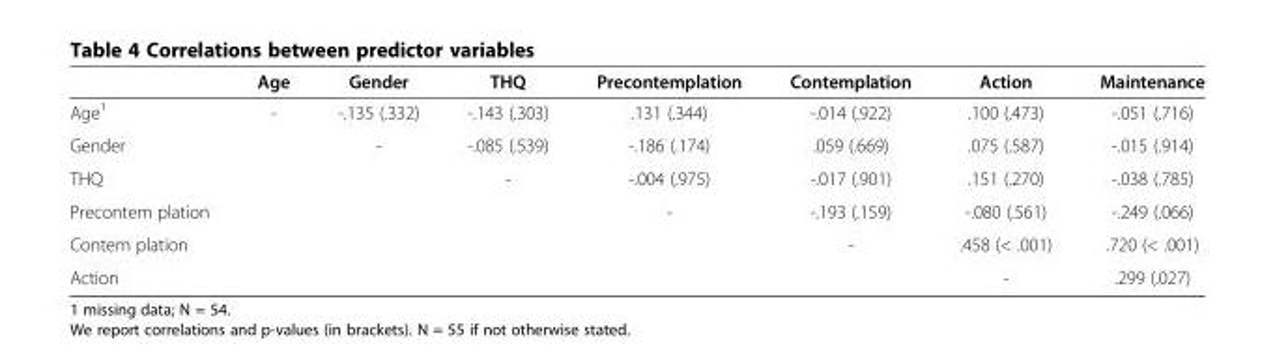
<table><thead><tr><td></td><td>Age</td><td>Gender</td><td>THQ</td><td>Precontemplation</td><td>Contemplation</td><td>Action</td><td>Maintenance</td></tr></thead><tbody><tr><td>Age<sup>1</sup></td><td>-</td><td>-.135 (.332)</td><td>-.143 (.303)</td><td>.131 (.344)</td><td>-.014 (.922)</td><td>.100 (.473)</td><td>-.051 (.716)</td></tr><tr><td>Gender</td><td></td><td>-</td><td>-.085 (.539)</td><td>-.186 (.174)</td><td>.059 (.669)</td><td>.075 (.587)</td><td>-.015 (.914)</td></tr><tr><td>THQ</td><td></td><td></td><td>-</td><td>-.004 (.975)</td><td>-.017 (.901)</td><td>.151 (.270)</td><td>-.038 (.785)</td></tr><tr><td>Precontem plation</td><td></td><td></td><td></td><td>-</td><td>-.193 (.159)</td><td>-.080 (.561)</td><td>-.249 (.066)</td></tr><tr><td>Contem plation</td><td></td><td></td><td></td><td></td><td>-</td><td>.458 (&lt; .001)</td><td>.720 (&lt; .001)</td></tr><tr><td>Action</td><td></td><td></td><td></td><td></td><td></td><td>-</td><td>.299 (.027)</td></tr></tbody></table>